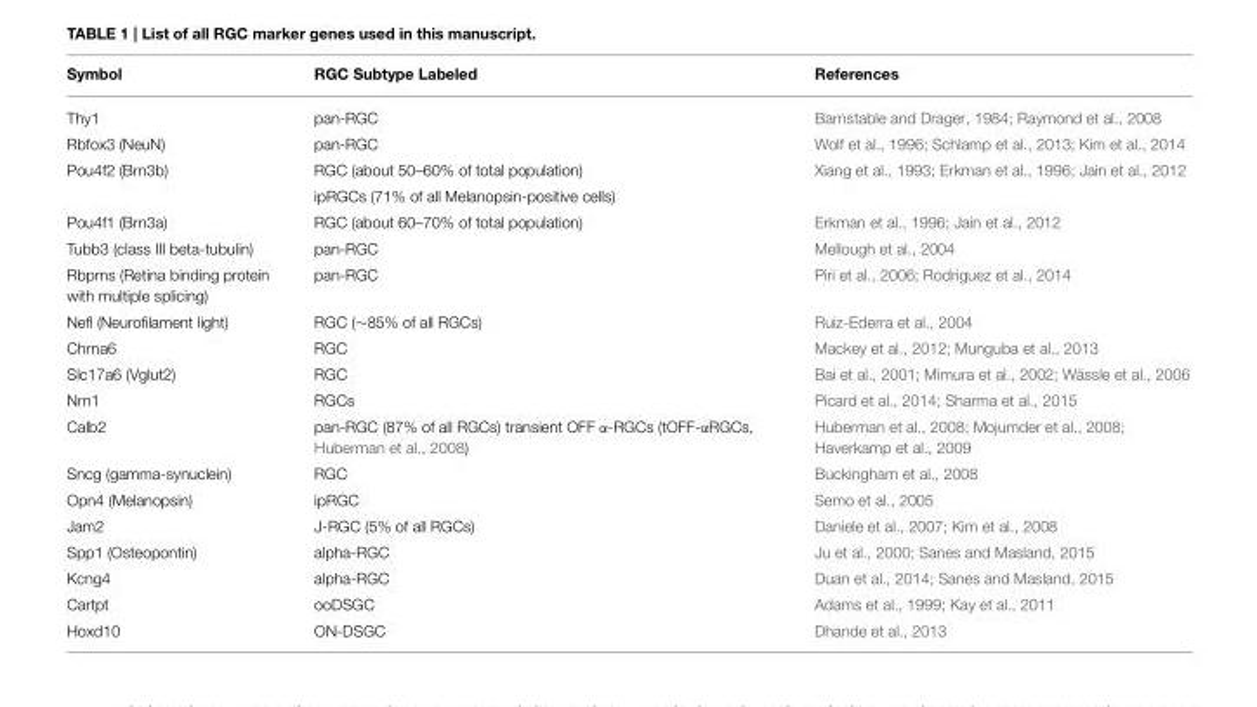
<table><thead><tr><td>Symbol</td><td>RGC Subtype Labeled</td><td>References</td></tr></thead><tbody><tr><td>Thy1</td><td>pan-RGC</td><td>Barnstable and Drager, 1984; Raymond et al., 2008</td></tr><tr><td>Rbfox3 (NeuN)</td><td>pan-RGC</td><td>Wolf et al., 1996; Schlamp et al., 2013; Kim et al., 2014</td></tr><tr><td rowspan="2">Pou4f2 (Brn3b)</td><td>RGC (about 50–60% of total population)</td><td>Xiang et al., 1993; Erkman et al., 1996; Jain et al., 2012</td></tr><tr><td>ipRGCs (71% of all Melanopsin-positive cells)</td><td></td></tr><tr><td>Pou4f1 (Brn3a)</td><td>RGC (about 60–70% of total population)</td><td>Erkman et al., 1996; Jain et al., 2012</td></tr><tr><td>Tubb3 (class III beta-tubulin)</td><td>pan-RGC</td><td>Mellough et al., 2004</td></tr><tr><td>Rbpms (Retina binding protein with multiple splicing)</td><td>pan-RGC</td><td>Piri et al., 2006; Rodriguez et al., 2014</td></tr><tr><td>Nefl (Neurofilament light)</td><td>RGC (∼85% of all RGCs)</td><td>Ruiz-Ederra et al., 2004</td></tr><tr><td>Chrna6</td><td>RGC</td><td>Mackey et al., 2012; Munguba et al., 2013</td></tr><tr><td>Slc17a6 (Vglut2)</td><td>RGC</td><td>Bai et al., 2001; Mimura et al., 2002; Wässle et al., 2006</td></tr><tr><td>Nrn1</td><td>RGCs</td><td>Picard et al., 2014; Sharma et al., 2015</td></tr><tr><td>Calb2</td><td>pan-RGC (87% of all RGCs) transient OFF α-RGCs (tOFF-αRGCs, Huberman et al., 2008)</td><td>Huberman et al., 2008; Mojumder et al., 2008; Haverkamp et al., 2009</td></tr><tr><td>Sncg (gamma-synuclein)</td><td>RGC</td><td>Buckingham et al., 2008</td></tr><tr><td>Opn4 (Melanopsin)</td><td>ipRGC</td><td>Semo et al., 2005</td></tr><tr><td>Jam2</td><td>J-RGC (5% of all RGCs)</td><td>Daniele et al., 2007; Kim et al., 2008</td></tr><tr><td>Spp1 (Osteopontin)</td><td>alpha-RGC</td><td>Ju et al., 2000; Sanes and Masland, 2015</td></tr><tr><td>Kcng4</td><td>alpha-RGC</td><td>Duan et al., 2014; Sanes and Masland, 2015</td></tr><tr><td>Cartpt</td><td>ooDSGC</td><td>Adams et al., 1999; Kay et al., 2011</td></tr><tr><td>Hoxd10</td><td>ON-DSGC</td><td>Dhande et al., 2013</td></tr></tbody></table>